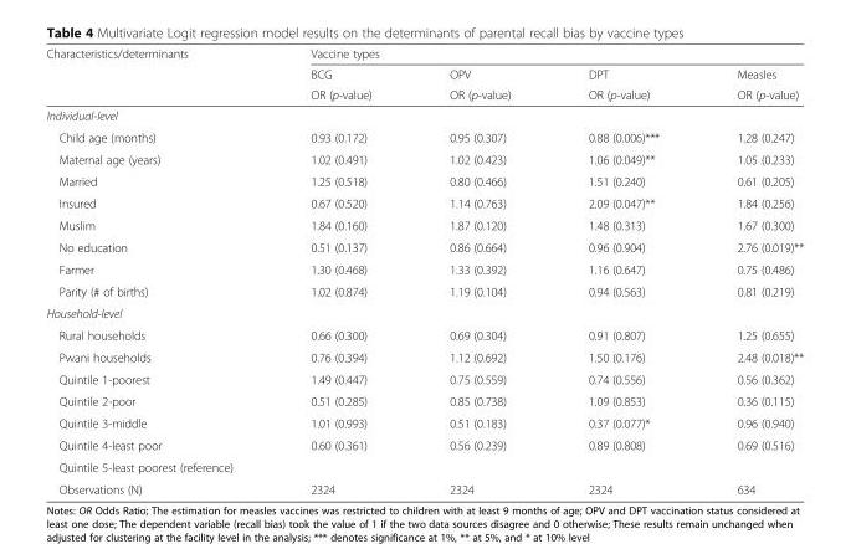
<table><thead><tr><td rowspan="3">Characteristics/determinants</td><td colspan="4">Vaccine types</td></tr><tr><td rowspan="2">BCG OR (p-value)</td><td rowspan="2">OPV OR (p-value)</td><td rowspan="2">DPT OR (p-value)</td><td rowspan="2">Measles OR (p-value)</td></tr><tr></tr></thead><tbody><tr><td colspan="5">Individual-level</td></tr><tr><td>Child age (months)</td><td>0.93 (0.172)</td><td>0.95 (0.307)</td><td>0.88 (0.006)***</td><td>1.28 (0.247)</td></tr><tr><td>Maternal age (years)</td><td>1.02 (0.491)</td><td>1.02 (0.423)</td><td>1.06 (0.049)**</td><td>1.05 (0.233)</td></tr><tr><td>Married</td><td>1.25 (0.518)</td><td>0.80 (0.466)</td><td>1.51 (0.240)</td><td>0.61 (0.205)</td></tr><tr><td>Insured</td><td>0.67 (0.520)</td><td>1.14 (0.763)</td><td>2.09 (0.047)**</td><td>1.84 (0.256)</td></tr><tr><td>Muslim</td><td>1.84 (0.160)</td><td>1.87 (0.120)</td><td>1.48 (0.313)</td><td>1.67 (0.300)</td></tr><tr><td>No education</td><td>0.51 (0.137)</td><td>0.86 (0.664)</td><td>0.96 (0.904)</td><td>2.76 (0.019)**</td></tr><tr><td>Farmer</td><td>1.30 (0.468)</td><td>1.33 (0.392)</td><td>1.16 (0.647)</td><td>0.75 (0.486)</td></tr><tr><td>Parity (# of births)</td><td>1.02 (0.874)</td><td>1.19 (0.104)</td><td>0.94 (0.563)</td><td>0.81 (0.219)</td></tr><tr><td colspan="5">Household-level</td></tr><tr><td>Rural households</td><td>0.66 (0.300)</td><td>0.69 (0.304)</td><td>0.91 (0.807)</td><td>1.25 (0.655)</td></tr><tr><td>Pwani households</td><td>0.76 (0.394)</td><td>1.12 (0.692)</td><td>1.50 (0.176)</td><td>2.48 (0.018)**</td></tr><tr><td>Quintile 1-poorest</td><td>1.49 (0.447)</td><td>0.75 (0.559)</td><td>0.74 (0.556)</td><td>0.56 (0.362)</td></tr><tr><td>Quintile 2-poor</td><td>0.51 (0.285)</td><td>0.85 (0.738)</td><td>1.09 (0.853)</td><td>0.36 (0.115)</td></tr><tr><td>Quintile 3-middle</td><td>1.01 (0.993)</td><td>0.51 (0.183)</td><td>0.37 (0.077)*</td><td>0.96 (0.940)</td></tr><tr><td>Quintile 4-least poor</td><td>0.60 (0.361)</td><td>0.56 (0.239)</td><td>0.89 (0.808)</td><td>0.69 (0.516)</td></tr><tr><td colspan="5">Quintile 5-least poorest (reference)</td></tr><tr><td>Observations (N)</td><td>2324</td><td>2324</td><td>2324</td><td>634</td></tr></tbody></table>